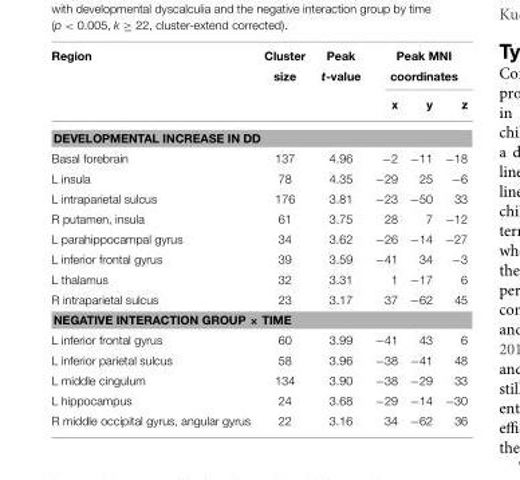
<table><thead><tr><td rowspan="3">Region</td><td rowspan="3">Cluster size</td><td rowspan="3">Peak t-value</td><td rowspan="2" colspan="3">Peak MNI coordinates</td></tr><tr></tr><tr><td>x</td><td>y</td><td>z</td></tr></thead><tbody><tr><td colspan="6">DEVELOPMENTAL INCREASE IN DD</td></tr><tr><td>Basal forebrain</td><td>137</td><td>4.96</td><td>−2</td><td>−11</td><td>−18</td></tr><tr><td>L insula</td><td>78</td><td>4.35</td><td>−29</td><td>25</td><td>−6</td></tr><tr><td>L intraparietal sulcus</td><td>176</td><td>3.81</td><td>−23</td><td>−50</td><td>33</td></tr><tr><td>R putamen, insula</td><td>61</td><td>3.75</td><td>28</td><td>7</td><td>−12</td></tr><tr><td>L parahippocampal gyrus</td><td>34</td><td>3.62</td><td>−26</td><td>−14</td><td>−27</td></tr><tr><td>L inferior frontal gyrus</td><td>39</td><td>3.59</td><td>−41</td><td>34</td><td>−3</td></tr><tr><td>L thalamus</td><td>32</td><td>3.31</td><td>1</td><td>−17</td><td>6</td></tr><tr><td>R intraparietal sulcus</td><td>23</td><td>3.17</td><td>37</td><td>−62</td><td>45</td></tr><tr><td colspan="6">NEGATIVE INTERACTION GROUP × TIME</td></tr><tr><td>L inferior frontal gyrus</td><td>60</td><td>3.99</td><td>−41</td><td>43</td><td>6</td></tr><tr><td>L inferior parietal sulcus</td><td>58</td><td>3.96</td><td>−38</td><td>−41</td><td>48</td></tr><tr><td>L middle cingulum</td><td>134</td><td>3.90</td><td>−38</td><td>−29</td><td>33</td></tr><tr><td>L hippocampus</td><td>24</td><td>3.68</td><td>−29</td><td>−14</td><td>−30</td></tr><tr><td>R middle occipital gyrus, angular gyrus</td><td>22</td><td>3.16</td><td>34</td><td>−62</td><td>36</td></tr></tbody></table>